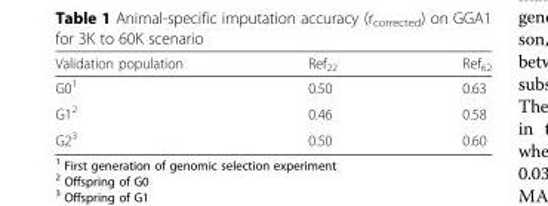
<table><thead><tr><td>Validation population</td><td>Ref<sub>22</sub></td><td>Ref<sub>62</sub></td></tr></thead><tbody><tr><td>G0<sup>1</sup></td><td>0.50</td><td>0.63</td></tr><tr><td>G1<sup>2</sup></td><td>0.46</td><td>0.58</td></tr><tr><td>G2<sup>3</sup></td><td>0.50</td><td>0.60</td></tr></tbody></table>